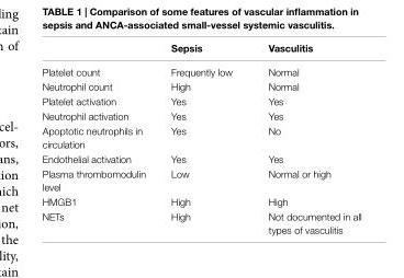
<table><thead><tr><td></td><td>Sepsis</td><td>vasculitis</td></tr></thead><tbody><tr><td>Platelet count</td><td>Frequently low</td><td>Normal</td></tr><tr><td>Neutrophil count</td><td>High</td><td>Normal</td></tr><tr><td>Platelet activation</td><td>Yes</td><td>Yes</td></tr><tr><td>Neutrophil activation</td><td>Yes</td><td>Yes</td></tr><tr><td>Apoptotic neutrophils in circulation</td><td>Yes</td><td>No</td></tr><tr><td>Endothelial activation</td><td>Yes</td><td>Yes</td></tr><tr><td>Plasma thrombomodulin level</td><td>Low</td><td>Normal or high</td></tr><tr><td>HMGB1</td><td>High</td><td>High</td></tr><tr><td>NETs</td><td>High</td><td>Not documented in all types of vasculitis</td></tr></tbody></table>